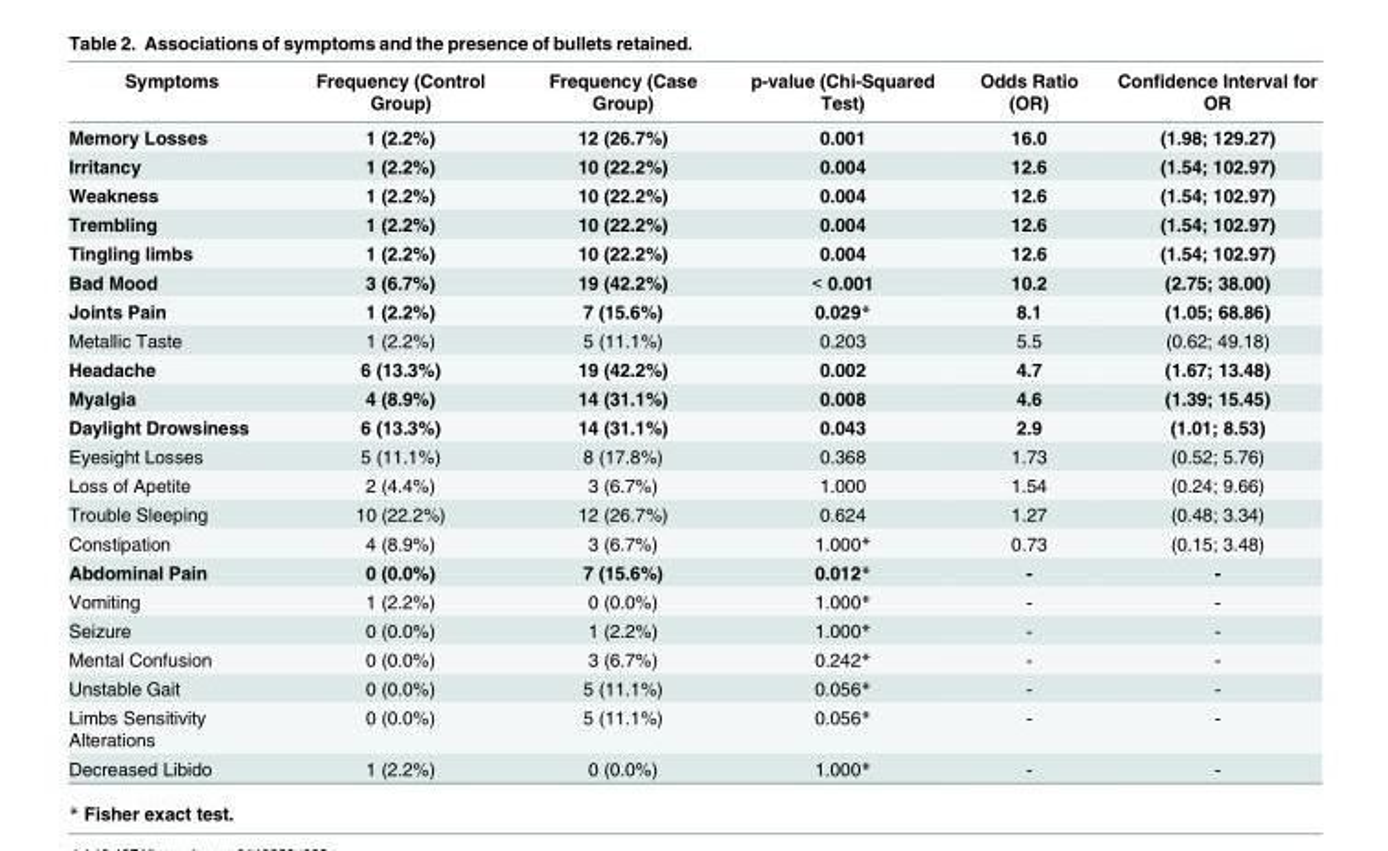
<table><thead><tr><td>Symptoms</td><td>Frequency (Control Group)</td><td>Frequency (Case Group)</td><td>p-value (Chi-Squared Test)</td><td>Odds Ratio (OR)</td><td>Confidence Interval for OR</td></tr></thead><tbody><tr><td>Memory Losses</td><td>1 (2.2%)</td><td>12 (26.7%)</td><td>0.001</td><td>16.0</td><td>(1.98; 129.27)</td></tr><tr><td>Irritancy</td><td>1 (2.2%)</td><td>10 (22.2%)</td><td>0.004</td><td>12.6</td><td>(1.54; 102.97)</td></tr><tr><td>Weakness</td><td>1 (2.2%)</td><td>10 (22.2%)</td><td>0.004</td><td>12.6</td><td>(1.54; 102.97)</td></tr><tr><td>Trembling</td><td>1 (2.2%)</td><td>10 (22.2%)</td><td>0.004</td><td>12.6</td><td>(1.54; 102.97)</td></tr><tr><td>Tingling limbs</td><td>1 (2.2%)</td><td>10 (22.2%)</td><td>0.004</td><td>12.6</td><td>(1.54; 102.97)</td></tr><tr><td>Bad Mood</td><td>3 (6.7%)</td><td>19 (42.2%)</td><td>&lt; 0.001</td><td>10.2</td><td>(2.75; 38.00)</td></tr><tr><td>Joints Pain</td><td>1 (2.2%)</td><td>7 (15.6%)</td><td>0.029*</td><td>8.1</td><td>(1.05; 68.86)</td></tr><tr><td>Metallic Taste</td><td>1 (2.2%)</td><td>5 (11.1%)</td><td>0.203</td><td>5.5</td><td>(0.62; 49.18)</td></tr><tr><td>Headache</td><td>6 (13.3%)</td><td>19 (42.2%)</td><td>0.002</td><td>4.7</td><td>(1.67; 13.48)</td></tr><tr><td>Myalgia</td><td>4 (8.9%)</td><td>14 (31.1%)</td><td>0.008</td><td>4.6</td><td>(1.39; 15.45)</td></tr><tr><td>Daylight Drowsiness</td><td>6 (13.3%)</td><td>14 (31.1%)</td><td>0.043</td><td>2.9</td><td>(1.01; 8.53)</td></tr><tr><td>Eyesight Losses</td><td>5 (11.1%)</td><td>8 (17.8%)</td><td>0.368</td><td>1.73</td><td>(0.52; 5.76)</td></tr><tr><td>Loss of Apetite</td><td>2 (4.4%)</td><td>3 (6.7%)</td><td>1.000</td><td>1.54</td><td>(0.24; 9.66)</td></tr><tr><td>Trouble Sleeping</td><td>10 (22.2%)</td><td>12 (26.7%)</td><td>0.624</td><td>1.27</td><td>(0.48; 3.34)</td></tr><tr><td>Constipation</td><td>4 (8.9%)</td><td>3 (6.7%)</td><td>1.000*</td><td>0.73</td><td>(0.15; 3.48)</td></tr><tr><td>Abdominal Pain</td><td>0 (0.0%)</td><td>7 (15.6%)</td><td>0.012*</td><td>-</td><td>-</td></tr><tr><td>Vomiting</td><td>1 (2.2%)</td><td>0 (0.0%)</td><td>1.000*</td><td>-</td><td>-</td></tr><tr><td>Seizure</td><td>0 (0.0%)</td><td>1 (2.2%)</td><td>1.000*</td><td>-</td><td>-</td></tr><tr><td>Mental Confusion</td><td>0 (0.0%)</td><td>3 (6.7%)</td><td>0.242*</td><td>-</td><td>-</td></tr><tr><td>Unstable Gait</td><td>0 (0.0%)</td><td>5 (11.1%)</td><td>0.056*</td><td>-</td><td>-</td></tr><tr><td>Limbs Sensitivity Alterations</td><td>0 (0.0%)</td><td>5 (11.1%)</td><td>0.056*</td><td>-</td><td>-</td></tr><tr><td>Decreased Libido</td><td>1 (2.2%)</td><td>0 (0.0%)</td><td>1.000*</td><td>-</td><td>-</td></tr></tbody></table>